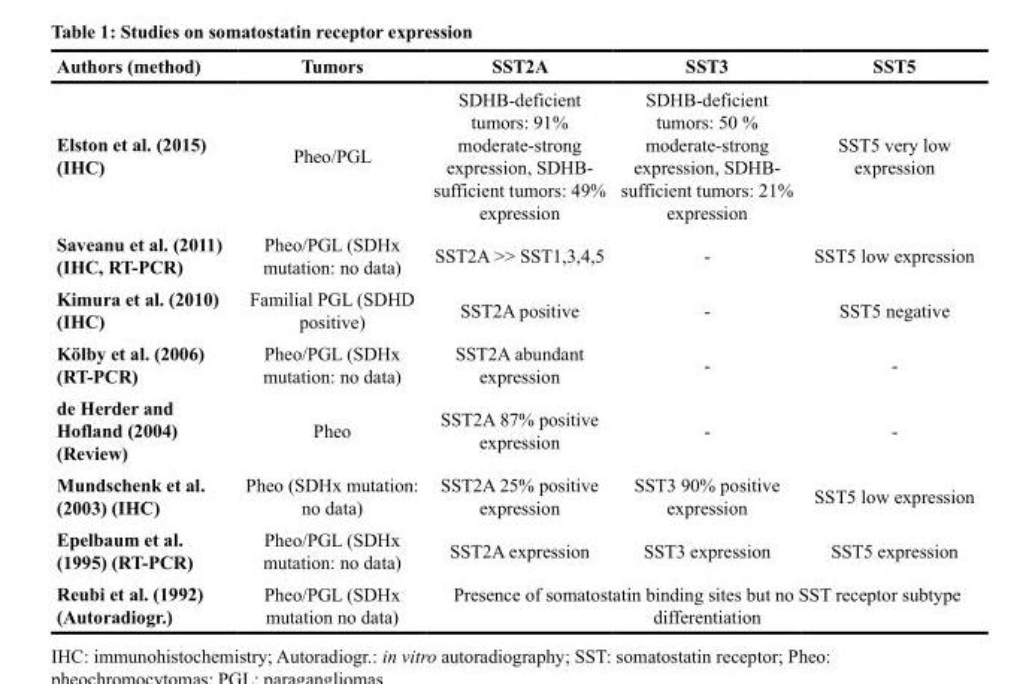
<table><thead><tr><td>Authors (method)</td><td>Tumors</td><td>SST2A</td><td>SST3</td><td>SST5</td></tr></thead><tbody><tr><td>Elston et al. (2015) (IHC)</td><td>Pheo/PGL</td><td>SDHB-deficient tumors: 91% moderate-strong expression, SDHB- sufficient tumors: 49% expression</td><td>SDHB-deficient tumors: 50 % moderate-strong expression, SDHB- sufficient tumors: 21% expression</td><td>SST5 very low expression</td></tr><tr><td>Saveanu et al. (2011) (IHC, RT-PCR)</td><td>Pheo/PGL (SDHx mutation: no data)</td><td>SST2A &gt;&gt; SST1,3,4,5</td><td>-</td><td>SST5 low expression</td></tr><tr><td>Kimura et al. (2010) (IHC)</td><td>Familial PGL (SDHD positive)</td><td>SST2A positive</td><td>-</td><td>SST5 negative</td></tr><tr><td>Kölby et al. (2006) (RT-PCR)</td><td>Pheo/PGL (SDHx mutation: no data)</td><td>SST2A abundant expression</td><td>-</td><td>-</td></tr><tr><td>de Herder and Hofland (2004) (Review)</td><td>Pheo</td><td>SST2A 87% positive expression</td><td>-</td><td>-</td></tr><tr><td>Mundschenk et al. (2003) (IHC)</td><td>Pheo (SDHx mutation: no data)</td><td>SST2A 25% positive expression</td><td>SST3 90% positive expression</td><td>SST5 low expression</td></tr><tr><td>Epelbaum et al. (1995) (RT-PCR)</td><td>Pheo/PGL (SDHx mutation: no data)</td><td>SST2A expression</td><td>SST3 expression</td><td>SST5 expression</td></tr><tr><td>Reubi et al. (1992) (Autoradiogr.)</td><td>Pheo/PGL (SDHx mutation no data)</td><td colspan="3">Presence of somatostatin binding sites but no SST receptor subtype differentiation</td></tr></tbody></table>